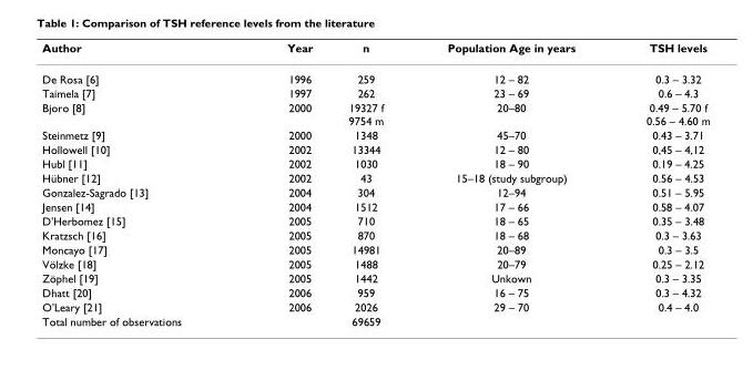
<table><thead><tr><td>Author</td><td>Year</td><td>n</td><td>Population Age in years</td><td>TSH levels</td></tr></thead><tbody><tr><td>De Rosa [6]</td><td>1996</td><td>259</td><td>12 – 82</td><td>0.3 – 3.32</td></tr><tr><td>Taimela [7]</td><td>1997</td><td>262</td><td>23 – 69</td><td>0.6 – 4.3</td></tr><tr><td>Bjoro [8]</td><td>2000</td><td>19327 f 9754 m</td><td>20–80</td><td>0.49 – 5.70 f 0.56 – 4.60 m</td></tr><tr><td>Steinmetz [9]</td><td>2000</td><td>1348</td><td>45–70</td><td>0.43 – 3.71</td></tr><tr><td>Hollowell [10]</td><td>2002</td><td>13344</td><td>12 – 80</td><td>0,45 – 4,12</td></tr><tr><td>Hubl [11]</td><td>2002</td><td>1030</td><td>18 – 90</td><td>0.19 – 4.25</td></tr><tr><td>Hübner [12]</td><td>2002</td><td>43</td><td>15–18 (study subgroup)</td><td>0.56 – 4.53</td></tr><tr><td>Gonzalez-Sagrado [13]</td><td>2004</td><td>304</td><td>12–94</td><td>0.51 – 5.95</td></tr><tr><td>Jensen [14]</td><td>2004</td><td>1512</td><td>17 – 66</td><td>0.58 – 4.07</td></tr><tr><td>D&#x27;Herbomez [15]</td><td>2005</td><td>710</td><td>18 – 65</td><td>0.35 – 3.48</td></tr><tr><td>Kratzsch [16]</td><td>2005</td><td>870</td><td>18 – 68</td><td>0.3 – 3.63</td></tr><tr><td>Moncayo [17]</td><td>2005</td><td>14981</td><td>20–89</td><td>0.3 – 3.5</td></tr><tr><td>Völzke [18]</td><td>2005</td><td>1488</td><td>20–79</td><td>0.25 – 2.12</td></tr><tr><td>Zöphel [19]</td><td>2005</td><td>1442</td><td>Unkown</td><td>0.3 – 3.35</td></tr><tr><td>Dhatt [20]</td><td>2006</td><td>959</td><td>16 – 75</td><td>0.3 – 4.32</td></tr><tr><td>O&#x27;Leary [21]</td><td>2006</td><td>2026</td><td>29 – 70</td><td>0.4 – 4.0</td></tr><tr><td>Total number of observations</td><td></td><td>69659</td><td></td><td></td></tr></tbody></table>